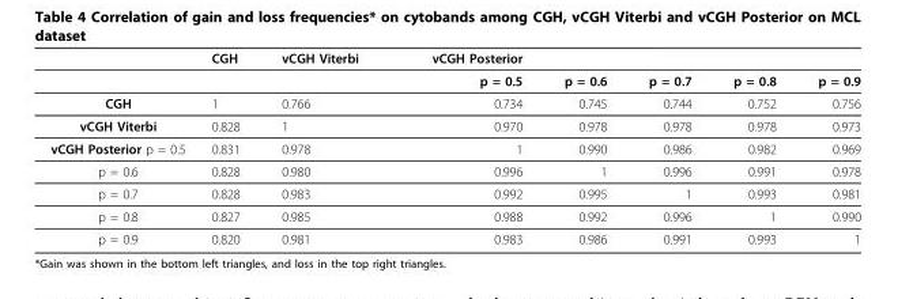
<table><thead><tr><td></td><td>CGH</td><td>vCGH Viterbi</td><td>vCGH Posterior</td><td></td><td></td><td></td><td></td></tr></thead><tbody><tr><td></td><td></td><td></td><td>p = 0.5</td><td>p = 0.6</td><td>p = 0.7</td><td>p = 0.8</td><td>p = 0.9</td></tr><tr><td>CGH</td><td>1</td><td>0.766</td><td>0.734</td><td>0.745</td><td>0.744</td><td>0.752</td><td>0.756</td></tr><tr><td>vCGH Viterbi</td><td>0.828</td><td>1</td><td>0.970</td><td>0.978</td><td>0.978</td><td>0.978</td><td>0.973</td></tr><tr><td>vCGH Posterior p = 0.5</td><td>0.831</td><td>0.978</td><td>1</td><td>0.990</td><td>0.986</td><td>0.982</td><td>0.969</td></tr><tr><td>p = 0.6</td><td>0.828</td><td>0.980</td><td>0.996</td><td>1</td><td>0.996</td><td>0.991</td><td>0.978</td></tr><tr><td>p = 0.7</td><td>0.828</td><td>0.983</td><td>0.992</td><td>0.995</td><td>1</td><td>0.993</td><td>0.981</td></tr><tr><td>p = 0.8</td><td>0.827</td><td>0.985</td><td>0.988</td><td>0.992</td><td>0.996</td><td>1</td><td>0.990</td></tr><tr><td>p = 0.9</td><td>0.820</td><td>0.981</td><td>0.983</td><td>0.986</td><td>0.991</td><td>0.993</td><td>1</td></tr></tbody></table>